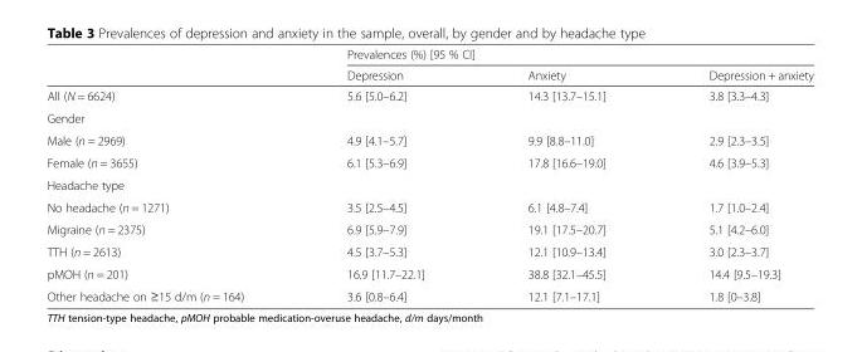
<table><thead><tr><td rowspan="2"></td><td colspan="3">Prevalences (%) [95 % CI]</td></tr><tr><td>Depression</td><td>Anxiety</td><td>Depression + anxiety</td></tr></thead><tbody><tr><td>All (N = 6624)</td><td>5.6 [5.0–6.2]</td><td>14.3 [13.7–15.1]</td><td>3.8 [3.3–4.3]</td></tr><tr><td colspan="4">Gender</td></tr><tr><td>Male (n = 2969)</td><td>4.9 [4.1–5.7]</td><td>9.9 [8.8–11.0]</td><td>2.9 [2.3–3.5]</td></tr><tr><td>Female (n = 3655)</td><td>6.1 [5.3–6.9]</td><td>17.8 [16.6–19.0]</td><td>4.6 [3.9–5.3]</td></tr><tr><td colspan="4">Headache type</td></tr><tr><td>No headache (n = 1271)</td><td>3.5 [2.5–4.5]</td><td>6.1 [4.8–7.4]</td><td>1.7 [1.0–2.4]</td></tr><tr><td>Migraine (n = 2375)</td><td>6.9 [5.9–7.9]</td><td>19.1 [17.5–20.7]</td><td>5.1 [4.2–6.0]</td></tr><tr><td>TTH (n = 2613)</td><td>4.5 [3.7–5.3]</td><td>12.1 [10.9–13.4]</td><td>3.0 [2.3–3.7]</td></tr><tr><td>pMOH (n = 201)</td><td>16.9 [11.7–22.1]</td><td>38.8 [32.1–45.5]</td><td>14.4 [9.5–19.3]</td></tr><tr><td>Other headache on ≥15 d/m (n = 164)</td><td>3.6 [0.8–6.4]</td><td>12.1 [7.1–17.1]</td><td>1.8 [0–3.8]</td></tr></tbody></table>